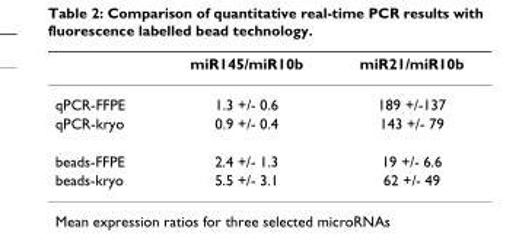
<table><thead><tr><td></td><td>miR145/miR10b</td><td>miR21/miR10b</td></tr></thead><tbody><tr><td>qPCR-FFPE</td><td>1.3 +/- 0.6</td><td>189 +/-137</td></tr><tr><td>qPCR-kryo</td><td>0.9 +/- 0.4</td><td>143 +/- 79</td></tr><tr><td>beads-FFPE</td><td>2.4 +/- 1.3</td><td>19 +/- 6.6</td></tr><tr><td>beads-kryo</td><td>5.5 +/- 3.1</td><td>62 +/- 49</td></tr></tbody></table>